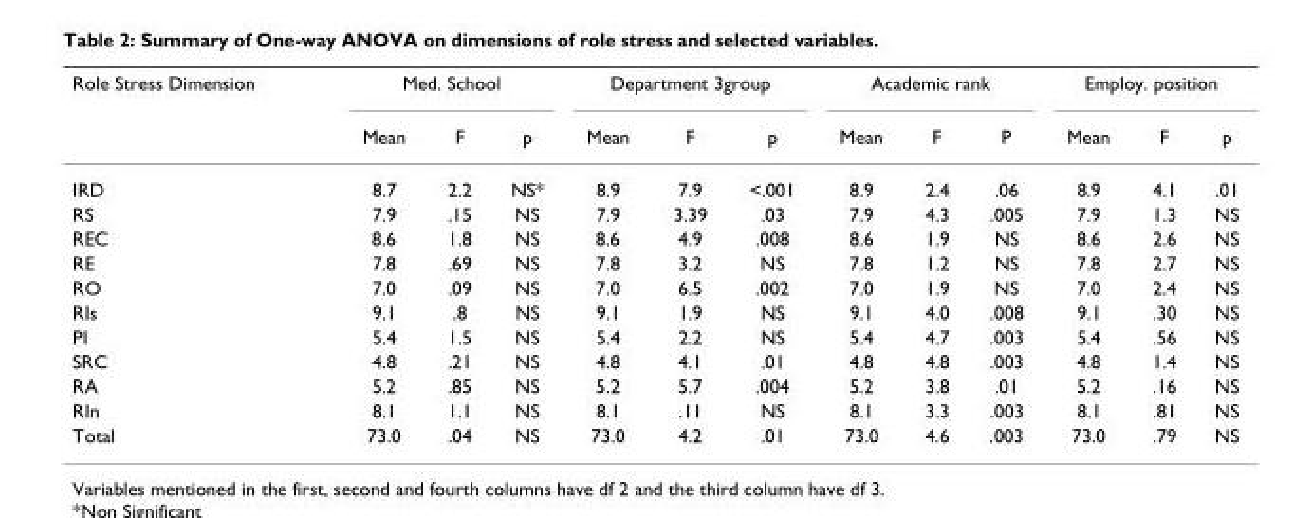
<table><thead><tr><td rowspan="2">Role Stress Dimension</td><td colspan="3">Med. School</td><td colspan="3">Department 3group</td><td colspan="3">Academic rank</td><td colspan="3">Employ. position</td></tr><tr><td>Mean</td><td>F</td><td>p</td><td>Mean</td><td>F</td><td>p</td><td>Mean</td><td>F</td><td>P</td><td>Mean</td><td>F</td><td>p</td></tr></thead><tbody><tr><td>IRD</td><td>8.7</td><td>2.2</td><td>NS*</td><td>8.9</td><td>7.9</td><td>&lt;.001</td><td>8.9</td><td>2.4</td><td>.06</td><td>8.9</td><td>4.1</td><td>.01</td></tr><tr><td>RS</td><td>7.9</td><td>.15</td><td>NS</td><td>7.9</td><td>3.39</td><td>.03</td><td>7.9</td><td>4.3</td><td>.005</td><td>7.9</td><td>1.3</td><td>NS</td></tr><tr><td>REC</td><td>8.6</td><td>1.8</td><td>NS</td><td>8.6</td><td>4.9</td><td>.008</td><td>8.6</td><td>1.9</td><td>NS</td><td>8.6</td><td>2.6</td><td>NS</td></tr><tr><td>RE</td><td>7.8</td><td>.69</td><td>NS</td><td>7.8</td><td>3.2</td><td>NS</td><td>7.8</td><td>1.2</td><td>NS</td><td>7.8</td><td>2.7</td><td>NS</td></tr><tr><td>RO</td><td>7.0</td><td>.09</td><td>NS</td><td>7.0</td><td>6.5</td><td>.002</td><td>7.0</td><td>1.9</td><td>NS</td><td>7.0</td><td>2.4</td><td>NS</td></tr><tr><td>RIs</td><td>9.1</td><td>.8</td><td>NS</td><td>9.1</td><td>1.9</td><td>NS</td><td>9.1</td><td>4.0</td><td>.008</td><td>9.1</td><td>.30</td><td>NS</td></tr><tr><td>PI</td><td>5.4</td><td>1.5</td><td>NS</td><td>5.4</td><td>2.2</td><td>NS</td><td>5.4</td><td>4.7</td><td>.003</td><td>5.4</td><td>.56</td><td>NS</td></tr><tr><td>SRC</td><td>4.8</td><td>.21</td><td>NS</td><td>4.8</td><td>4.1</td><td>.01</td><td>4.8</td><td>4.8</td><td>.003</td><td>4.8</td><td>1.4</td><td>NS</td></tr><tr><td>RA</td><td>5.2</td><td>.85</td><td>NS</td><td>5.2</td><td>5.7</td><td>.004</td><td>5.2</td><td>3.8</td><td>.01</td><td>5.2</td><td>.16</td><td>NS</td></tr><tr><td>RIn</td><td>8.1</td><td>1.1</td><td>NS</td><td>8.1</td><td>.11</td><td>NS</td><td>8.1</td><td>3.3</td><td>.003</td><td>8.1</td><td>.81</td><td>NS</td></tr><tr><td>Total</td><td>73.0</td><td>.04</td><td>NS</td><td>73.0</td><td>4.2</td><td>.01</td><td>73.0</td><td>4.6</td><td>.003</td><td>73.0</td><td>.79</td><td>NS</td></tr></tbody></table>